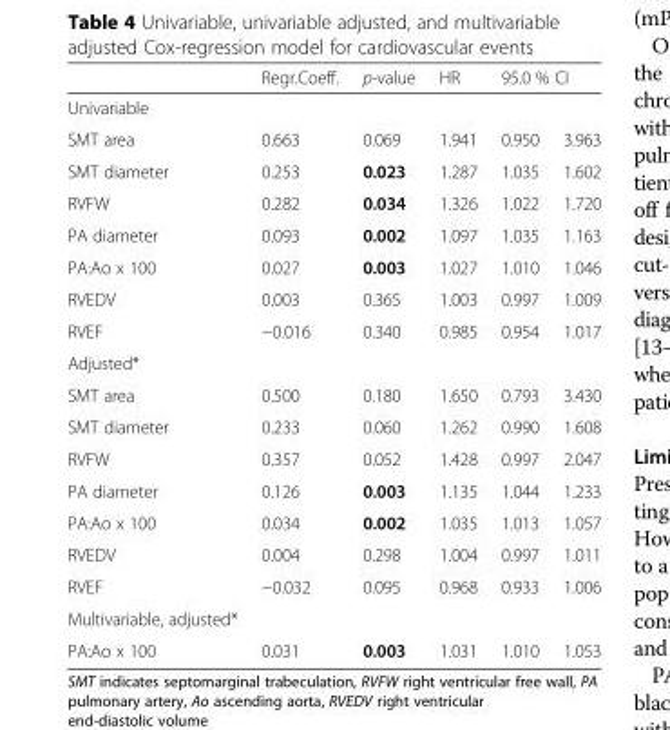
<table><thead><tr><td rowspan="2">Univariable</td><td rowspan="2">Regr.Coeff.</td><td rowspan="2">p-value</td><td rowspan="2">HR</td><td colspan="2">95.0 % CI</td></tr><tr><td></td><td></td></tr></thead><tbody><tr><td>SMT area</td><td>0.663</td><td>0.069</td><td>1.941</td><td>0.950</td><td>3.963</td></tr><tr><td>SMT diameter</td><td>0.253</td><td>0.023</td><td>1.287</td><td>1.035</td><td>1.602</td></tr><tr><td>RVFW</td><td>0.282</td><td>0.034</td><td>1.326</td><td>1.022</td><td>1.720</td></tr><tr><td>PA diameter</td><td>0.093</td><td>0.002</td><td>1.097</td><td>1.035</td><td>1.163</td></tr><tr><td>PA:Ao x 100</td><td>0.027</td><td>0.003</td><td>1.027</td><td>1.010</td><td>1.046</td></tr><tr><td>RVEDV</td><td>0.003</td><td>0.365</td><td>1.003</td><td>0.997</td><td>1.009</td></tr><tr><td>RVEF</td><td>−0.016</td><td>0.340</td><td>0.985</td><td>0.954</td><td>1.017</td></tr><tr><td colspan="6">Adjusted*</td></tr><tr><td>SMT area</td><td>0.500</td><td>0.180</td><td>1.650</td><td>0.793</td><td>3.430</td></tr><tr><td>SMT diameter</td><td>0.233</td><td>0.060</td><td>1.262</td><td>0.990</td><td>1.608</td></tr><tr><td>RVFW</td><td>0.357</td><td>0.052</td><td>1.428</td><td>0.997</td><td>2.047</td></tr><tr><td>PA diameter</td><td>0.126</td><td>0.003</td><td>1.135</td><td>1.044</td><td>1.233</td></tr><tr><td>PA:Ao x 100</td><td>0.034</td><td>0.002</td><td>1.035</td><td>1.013</td><td>1.057</td></tr><tr><td>RVEDV</td><td>0.004</td><td>0.298</td><td>1.004</td><td>0.997</td><td>1.011</td></tr><tr><td>RVEF</td><td>−0.032</td><td>0.095</td><td>0.968</td><td>0.933</td><td>1.006</td></tr><tr><td colspan="6">Multivariable, adjusted*</td></tr><tr><td>PA:Ao x 100</td><td>0.031</td><td>0.003</td><td>1.031</td><td>1.010</td><td>1.053</td></tr></tbody></table>